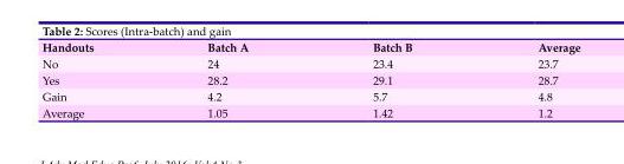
<table><thead><tr><td>Handouts</td><td>Batch A</td><td>Batch B</td><td>Average</td></tr></thead><tbody><tr><td>No</td><td>24</td><td>23.4</td><td>23.7</td></tr><tr><td>Yes</td><td>28.2</td><td>29.1</td><td>28.7</td></tr><tr><td>Gain</td><td>4.2</td><td>5.7</td><td>4.8</td></tr><tr><td>Average</td><td>1.05</td><td>1.42</td><td>1.2</td></tr></tbody></table>